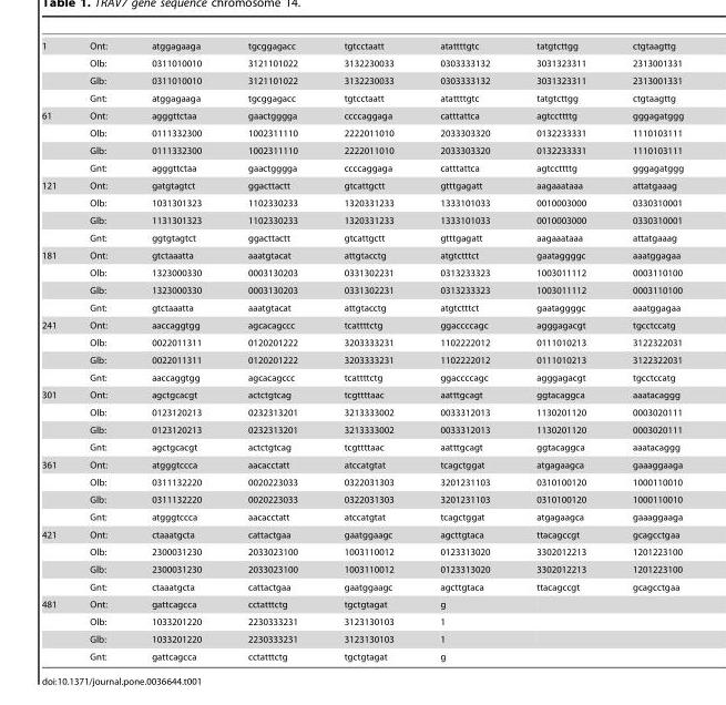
<table><tbody><tr><td rowspan="4">1</td><td>Ont:</td><td>atggagaaga</td><td>tgcggagacc</td><td>tgtcctaatt</td><td>atattttgtc</td><td>tatgtcttgg</td><td>ctgtaagttg</td></tr><tr><td>Olb:</td><td>0311010010</td><td>3121101022</td><td>3132230033</td><td>0303333132</td><td>3031323311</td><td>2313001331</td></tr><tr><td>Glb:</td><td>0311010010</td><td>3121101022</td><td>3132230033</td><td>0303333132</td><td>3031323311</td><td>2313001331</td></tr><tr><td>Gnt:</td><td>atggagaaga</td><td>tgcggagacc</td><td>tgtcctaatt</td><td>atattttgtc</td><td>tatgtcttgg</td><td>ctgtaagttg</td></tr><tr><td rowspan="4">61</td><td>Ont:</td><td>agggttctaa</td><td>gaactgggga</td><td>ccccaggaga</td><td>catttattca</td><td>agtccttttg</td><td>gggagatggg</td></tr><tr><td>Olb:</td><td>0111332300</td><td>1002311110</td><td>2222011010</td><td>2033303320</td><td>0132233331</td><td>1110103111</td></tr><tr><td>Glb:</td><td>0111332300</td><td>1002311110</td><td>2222011010</td><td>2033303320</td><td>0132233331</td><td>1110103111</td></tr><tr><td>Gnt:</td><td>agggttctaa</td><td>gaactgggga</td><td>ccccaggaga</td><td>catttattca</td><td>agtccttttg</td><td>gggagatggg</td></tr><tr><td rowspan="4">121</td><td>Ont:</td><td>gatgtagtct</td><td>ggacttactt</td><td>gtcattgctt</td><td>gtttgagatt</td><td>aagaaataaa</td><td>attatgaaag</td></tr><tr><td>Olb:</td><td>1031301323</td><td>1102330233</td><td>1320331233</td><td>1333101033</td><td>0010003000</td><td>0330310001</td></tr><tr><td>Glb:</td><td>1131301323</td><td>1102330233</td><td>1320331233</td><td>1333101033</td><td>0010003000</td><td>0330310001</td></tr><tr><td>Gnt:</td><td>ggtgtagtct</td><td>ggacttactt</td><td>gtcattgctt</td><td>gtttgagatt</td><td>aagaaataaa</td><td>attatgaaag</td></tr><tr><td rowspan="4">181</td><td>Ont:</td><td>gtctaaatta</td><td>aaatgtacat</td><td>attgtacctg</td><td>atgtctttct</td><td>gaataggggc</td><td>aaatggagaa</td></tr><tr><td>Olb:</td><td>1323000330</td><td>0003130203</td><td>0331302231</td><td>0313233323</td><td>1003011112</td><td>0003110100</td></tr><tr><td>Glb:</td><td>1323000330</td><td>0003130203</td><td>0331302231</td><td>0313233323</td><td>1003011112</td><td>0003110100</td></tr><tr><td>Gnt:</td><td>gtctaaatta</td><td>aaatgtacat</td><td>attgtacctg</td><td>atgtctttct</td><td>gaataggggc</td><td>aaatggagaa</td></tr><tr><td rowspan="4">241</td><td>Ont:</td><td>aaccaggtgg</td><td>agcacagccc</td><td>tcattttctg</td><td>ggaccccagc</td><td>agggagacgt</td><td>tgcctccatg</td></tr><tr><td>Olb:</td><td>0022011311</td><td>0120201222</td><td>3203333231</td><td>1102222012</td><td>0111010213</td><td>3122322031</td></tr><tr><td>Glb:</td><td>0022011311</td><td>0120201222</td><td>3203333231</td><td>1102222012</td><td>0111010213</td><td>3122322031</td></tr><tr><td>Gnt:</td><td>aaccaggtgg</td><td>agcacagccc</td><td>tcattttctg</td><td>ggaccccagc</td><td>agggagacgt</td><td>tgcctccatg</td></tr><tr><td rowspan="4">301</td><td>Ont:</td><td>agctgcacgt</td><td>actctgtcag</td><td>tcgttttaac</td><td>aatttgcagt</td><td>ggtacaggca</td><td>aaatacaggg</td></tr><tr><td>Olb:</td><td>0123120213</td><td>0232313201</td><td>3213333002</td><td>0033312013</td><td>1130201120</td><td>0003020111</td></tr><tr><td>Glb:</td><td>0123120213</td><td>0232313201</td><td>3213333002</td><td>0033312013</td><td>1130201120</td><td>0003020111</td></tr><tr><td>Gnt:</td><td>agctgcacgt</td><td>actctgtcag</td><td>tcgttttaac</td><td>aatttgcagt</td><td>ggtacaggca</td><td>aaatacaggg</td></tr><tr><td rowspan="4">361</td><td>Ont:</td><td>atgggtccca</td><td>aacacctatt</td><td>atccatgtat</td><td>tcagctggat</td><td>atgagaagca</td><td>gaaaggaaga</td></tr><tr><td>Olb:</td><td>0311132220</td><td>0020223033</td><td>0322031303</td><td>3201231103</td><td>0310100120</td><td>1000110010</td></tr><tr><td>Glb:</td><td>0311132220</td><td>0020223033</td><td>0322031303</td><td>3201231103</td><td>0310100120</td><td>1000110010</td></tr><tr><td>Gnt:</td><td>atgggtccca</td><td>aacacctatt</td><td>atccatgtat</td><td>tcagctggat</td><td>atgagaagca</td><td>gaaaggaaga</td></tr><tr><td rowspan="4">421</td><td>Ont:</td><td>ctaaatgcta</td><td>cattactgaa</td><td>gaatggaagc</td><td>agcttgtaca</td><td>ttacagccgt</td><td>gcagcctgaa</td></tr><tr><td>Olb:</td><td>2300031230</td><td>2033023100</td><td>1003110012</td><td>0123313020</td><td>3302012213</td><td>1201223100</td></tr><tr><td>Glb:</td><td>2300031230</td><td>2033023100</td><td>1003110012</td><td>0123313020</td><td>3302012213</td><td>1201223100</td></tr><tr><td>Gnt:</td><td>ctaaatgcta</td><td>cattactgaa</td><td>gaatggaagc</td><td>agcttgtaca</td><td>ttacagccgt</td><td>gcagcctgaa</td></tr><tr><td rowspan="4">481</td><td>Ont:</td><td>gattcagcca</td><td>cctatttctg</td><td>tgctgtagat</td><td>g</td><td></td><td></td></tr><tr><td>Olb:</td><td>1033201220</td><td>2230333231</td><td>3123130103</td><td>1</td><td></td><td></td></tr><tr><td>Glb:</td><td>1033201220</td><td>2230333231</td><td>3123130103</td><td>1</td><td></td><td></td></tr><tr><td>Gnt:</td><td>gattcagcca</td><td>cctatttctg</td><td>tgctgtagat</td><td>g</td><td></td><td></td></tr></tbody></table>